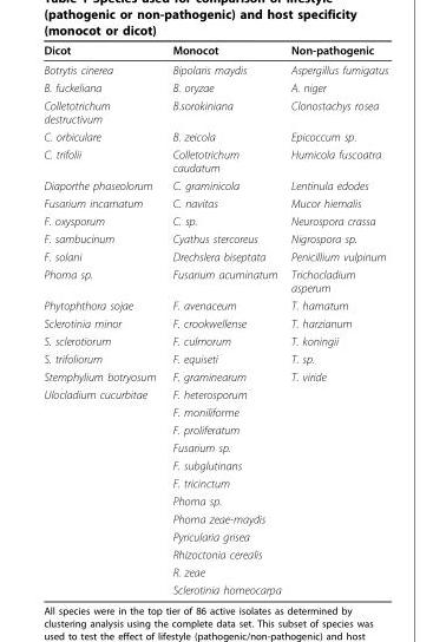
<table><thead><tr><td>Dicot</td><td>Monocot</td><td>Non-pathogenic</td></tr></thead><tbody><tr><td>Botrytis cinerea</td><td>Bipolaris maydis</td><td>Aspergillus fumigatus</td></tr><tr><td>B. fuckeliana</td><td>B. oryzae</td><td>A. niger</td></tr><tr><td>Colletotrichum destructivum</td><td>B.sorokiniana</td><td>Clonostachys rosea</td></tr><tr><td>C. orbiculare</td><td>B. zeicola</td><td>Epicoccum sp.</td></tr><tr><td>C. trifolii</td><td>Colletotrichum caudatum</td><td>Humicola fuscoatra</td></tr><tr><td>Diaporthe phaseolorum</td><td>C. graminicola</td><td>Lentinula edodes</td></tr><tr><td>Fusarium incarnatum</td><td>C. navitas</td><td>Mucor hiemalis</td></tr><tr><td>F. oxysporum</td><td>C. sp.</td><td>Neurospora crassa</td></tr><tr><td>F. sambucinum</td><td>Cyathus stercoreus</td><td>Nigrospora sp.</td></tr><tr><td>F. solani</td><td>Drechslera biseptata</td><td>Penicillium vulpinum</td></tr><tr><td>Phoma sp.</td><td>Fusarium acuminatum</td><td>Trichocladium asperum</td></tr><tr><td>Phytophthora sojae</td><td>F. avenaceum</td><td>T. hamatum</td></tr><tr><td>Sclerotinia minor</td><td>F. crookwellense</td><td>T. harzianum</td></tr><tr><td>S. sclerotiorum</td><td>F. culmorum</td><td>T. koningii</td></tr><tr><td>S. trifoliorum</td><td>F. equiseti</td><td>T. sp.</td></tr><tr><td>Stemphylium botryosum</td><td>F. graminearum</td><td>T. viride</td></tr><tr><td rowspan="12">Ulocladium cucurbitae</td><td>F. heterosporum</td><td></td></tr><tr><td>F. moniliforme</td><td></td></tr><tr><td>F. proliferatum</td><td></td></tr><tr><td>Fusarium sp.</td><td></td></tr><tr><td>F. subglutinans</td><td></td></tr><tr><td>F. tricinctum</td><td></td></tr><tr><td>Phoma sp.</td><td></td></tr><tr><td>Phoma zeae-maydis</td><td></td></tr><tr><td>Pyricularia grisea</td><td></td></tr><tr><td>Rhizoctonia cerealis</td><td></td></tr><tr><td>R. zeae</td><td></td></tr><tr><td>Sclerotinia homeocarpa</td><td></td></tr></tbody></table>